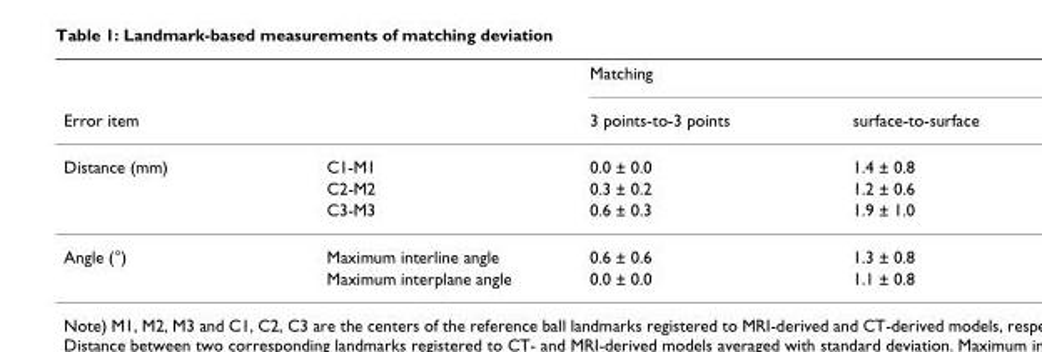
<table><thead><tr><td rowspan="2">Error item</td><td rowspan="2"></td><td colspan="2">Matching</td></tr><tr><td>3 points-to-3 points</td><td>surface-to-surface</td></tr></thead><tbody><tr><td rowspan="3">Distance (mm)</td><td>C1-M1</td><td>0.0 ± 0.0</td><td>1.4 ± 0.8</td></tr><tr><td>C2-M2</td><td>0.3 ± 0.2</td><td>1.2 ± 0.6</td></tr><tr><td>C3-M3</td><td>0.6 ± 0.3</td><td>1.9 ± 1.0</td></tr><tr><td rowspan="2">Angle (°)</td><td>Maximum interline angle</td><td>0.6 ± 0.6</td><td>1.3 ± 0.8</td></tr><tr><td>Maximum interplane angle</td><td>0.0 ± 0.0</td><td>1.1 ± 0.8</td></tr></tbody></table>